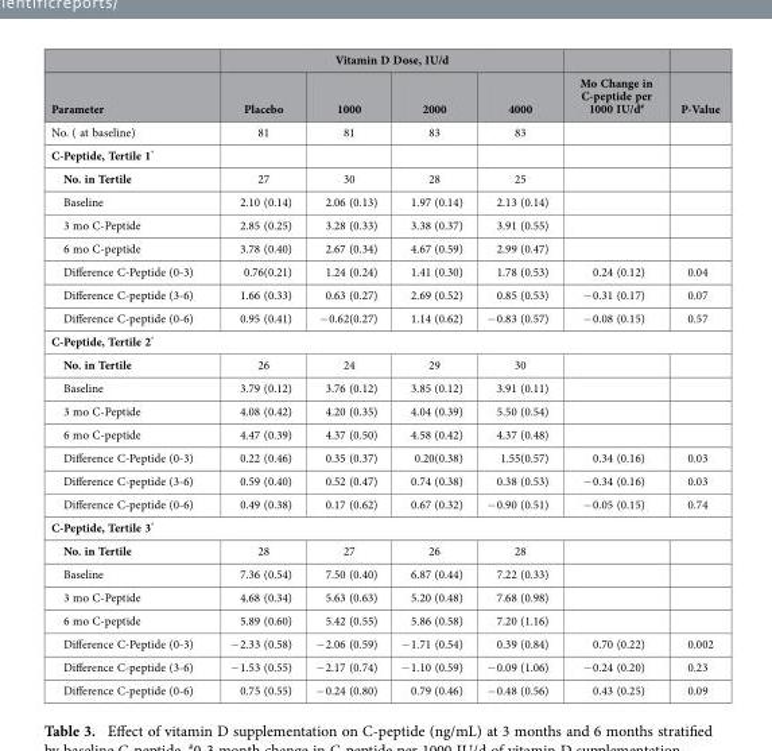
<table><thead><tr><td rowspan="2">Parameter</td><td colspan="4">Vitamin D Dose, IU/d</td><td rowspan="2">Mo Change in C-peptide per 1000 IU/d#</td><td rowspan="2">P-Value</td></tr><tr><td>Placebo</td><td>1000</td><td>2000</td><td>4000</td></tr></thead><tbody><tr><td>No. ( at baseline)</td><td>81</td><td>81</td><td>83</td><td>83</td><td></td><td></td></tr><tr><td colspan="7">C-Peptide, Tertile 1*</td></tr><tr><td>No. in Tertile</td><td>27</td><td>30</td><td>28</td><td>25</td><td></td><td></td></tr><tr><td>Baseline</td><td>2.10 (0.14)</td><td>2.06 (0.13)</td><td>1.97 (0.14)</td><td>2.13 (0.14)</td><td></td><td></td></tr><tr><td>3 mo C-Peptide</td><td>2.85 (0.25)</td><td>3.28 (0.33)</td><td>3.38 (0.37)</td><td>3.91 (0.55)</td><td></td><td></td></tr><tr><td>6 mo C-peptide</td><td>3.78 (0.40)</td><td>2.67 (0.34)</td><td>4.67 (0.59)</td><td>2.99 (0.47)</td><td></td><td></td></tr><tr><td>Difference C-Peptide (0-3)</td><td>0.76(0.21)</td><td>1.24 (0.24)</td><td>1.41 (0.30)</td><td>1.78 (0.53)</td><td>0.24 (0.12)</td><td>0.04</td></tr><tr><td>Difference C-peptide (3-6)</td><td>1.66 (0.33)</td><td>0.63 (0.27)</td><td>2.69 (0.52)</td><td>0.85 (0.53)</td><td>− 0.31 (0.17)</td><td>0.07</td></tr><tr><td>Difference C-peptide (0-6)</td><td>0.95 (0.41)</td><td>− 0.62(0.27)</td><td>1.14 (0.62)</td><td>− 0.83 (0.57)</td><td>− 0.08 (0.15)</td><td>0.57</td></tr><tr><td colspan="7">C-Peptide, Tertile 2*</td></tr><tr><td>No. in Tertile</td><td>26</td><td>24</td><td>29</td><td>30</td><td></td><td></td></tr><tr><td>Baseline</td><td>3.79 (0.12)</td><td>3.76 (0.12)</td><td>3.85 (0.12)</td><td>3.91 (0.11)</td><td></td><td></td></tr><tr><td>3 mo C-Peptide</td><td>4.08 (0.42)</td><td>4.20 (0.35)</td><td>4.04 (0.39)</td><td>5.50 (0.54)</td><td></td><td></td></tr><tr><td>6 mo C-peptide</td><td>4.47 (0.39)</td><td>4.37 (0.50)</td><td>4.58 (0.42)</td><td>4.37 (0.48)</td><td></td><td></td></tr><tr><td>Difference C-Peptide (0-3)</td><td>0.22 (0.46)</td><td>0.35 (0.37)</td><td>0.20(0.38)</td><td>1.55(0.57)</td><td>0.34 (0.16)</td><td>0.03</td></tr><tr><td>Difference C-peptide (3-6)</td><td>0.59 (0.40)</td><td>0.52 (0.47)</td><td>0.74 (0.38)</td><td>0.38 (0.53)</td><td>− 0.34 (0.16)</td><td>0.03</td></tr><tr><td>Difference C-peptide (0-6)</td><td>0.49 (0.38)</td><td>0.17 (0.62)</td><td>0.67 (0.32)</td><td>− 0.90 (0.51)</td><td>− 0.05 (0.15)</td><td>0.74</td></tr><tr><td colspan="7">C-Peptide, Tertile 3*</td></tr><tr><td>No. in Tertile</td><td>28</td><td>27</td><td>26</td><td>28</td><td></td><td></td></tr><tr><td>Baseline</td><td>7.36 (0.54)</td><td>7.50 (0.40)</td><td>6.87 (0.44)</td><td>7.22 (0.33)</td><td></td><td></td></tr><tr><td>3 mo C-Peptide</td><td>4.68 (0.34)</td><td>5.63 (0.63)</td><td>5.20 (0.48)</td><td>7.68 (0.98)</td><td></td><td></td></tr><tr><td>6 mo C-peptide</td><td>5.89 (0.60)</td><td>5.42 (0.55)</td><td>5.86 (0.58)</td><td>7.20 (1.16)</td><td></td><td></td></tr><tr><td>Difference C-Peptide (0-3)</td><td>− 2.33 (0.58)</td><td>− 2.06 (0.59)</td><td>− 1.71 (0.54)</td><td>0.39 (0.84)</td><td>0.70 (0.22)</td><td>0.002</td></tr><tr><td>Difference C-peptide (3-6)</td><td>− 1.53 (0.55)</td><td>− 2.17 (0.74)</td><td>− 1.10 (0.59)</td><td>− 0.09 (1.06)</td><td>− 0.24 (0.20)</td><td>0.23</td></tr><tr><td>Difference C-peptide (0-6)</td><td>0.75 (0.55)</td><td>− 0.24 (0.80)</td><td>0.79 (0.46)</td><td>− 0.48 (0.56)</td><td>0.43 (0.25)</td><td>0.09</td></tr></tbody></table>